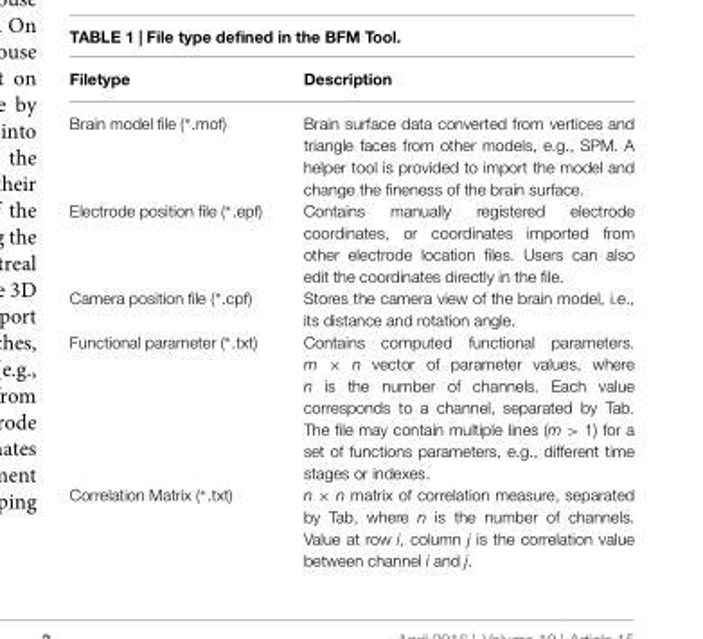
<table><thead><tr><td>Filetype</td><td>Description</td></tr></thead><tbody><tr><td>Brain model file (∗.mof)</td><td>Brain surface data converted from vertices and triangle faces from other models, e.g., SPM. A helper tool is provided to import the model and change the fineness of the brain surface.</td></tr><tr><td>Electrode position file (∗.epf)</td><td>Contains manually registered electrode coordinates, or coordinates imported from other electrode location files. Users can also edit the coordinates directly in the file.</td></tr><tr><td>Camera position file (∗.cpf)</td><td>Stores the camera view of the brain model, i.e., its distance and rotation angle.</td></tr><tr><td>Functional parameter (∗.txt)</td><td>Contains computed functional parameters. m × n vector of parameter values, where n is the number of channels. Each value corresponds to a channel, separated by Tab. The file may contain multiple lines (m &gt; 1) for a set of functions parameters, e.g., different time stages or indexes.</td></tr><tr><td>Correlation Matrix (∗.txt)</td><td>n × n matrix of correlation measure, separated by Tab, where n is the number of channels. Value at row i, column j is the correlation value between channel i and j.</td></tr></tbody></table>